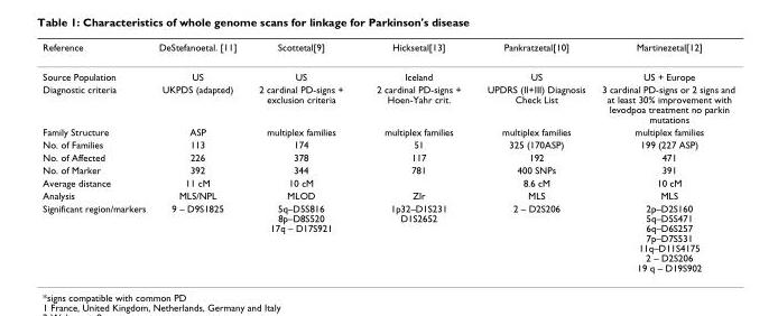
<table><thead><tr><td>Reference</td><td>DeStefanoetal. [11]</td><td>Scottetal[9]</td><td>Hicksetal[13]</td><td>Pankratzetal[10]</td><td>Martinezetal[12]</td></tr></thead><tbody><tr><td>Source Population</td><td>US</td><td>US</td><td>Iceland</td><td>US</td><td>US + Europe</td></tr><tr><td>Diagnostic criteria</td><td>UKPDS (adapted)</td><td>2 cardinal PD-signs + exclusion criteria</td><td>2 cardinal PD-signs + Hoen-Yahr crit.</td><td>UPDRS (II+III) Diagnosis Check List</td><td>3 cardinal PD-signs or 2 signs and at least 30% improvement with levodpoa treatment no parkin mutations</td></tr><tr><td>Family Structure</td><td>ASP</td><td>multiplex families</td><td>multiplex families</td><td>multiplex families</td><td>multiplex families</td></tr><tr><td>No. of Families</td><td>113</td><td>174</td><td>51</td><td>325 (170ASP)</td><td>199 (227 ASP)</td></tr><tr><td>No. of Affected</td><td>226</td><td>378</td><td>117</td><td>192</td><td>471</td></tr><tr><td>No. of Marker</td><td>392</td><td>344</td><td>781</td><td>400 SNPs</td><td>391</td></tr><tr><td>Average distance</td><td>11 cM</td><td>10 cM</td><td></td><td>8.6 cM</td><td>10 cM</td></tr><tr><td>Analysis</td><td>MLS/NPL</td><td>MLOD</td><td>Zlr</td><td>MLS</td><td>MLS</td></tr><tr><td>Significant region/markers</td><td>9 – D9S1825</td><td>5q–D5S816 8p–D8S520 17q – D17S921</td><td>1p32–D1S231 D1S2652</td><td>2 – D2S206</td><td>2p–D2S160 5q–D5S471 6q–D6S257 7p–D7S531 11q–D11S4175 2 – D2S206 19 q – D19S902</td></tr></tbody></table>